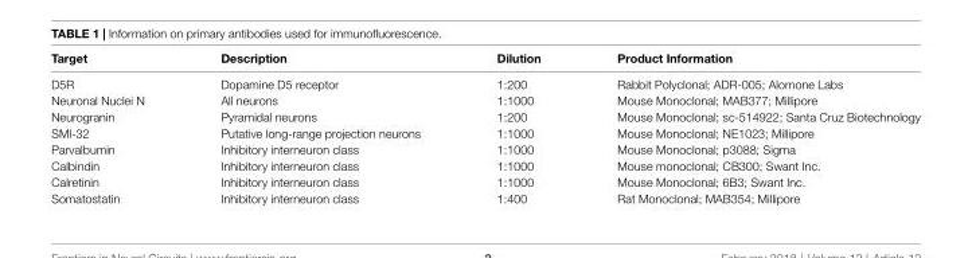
<table><thead><tr><td>Target</td><td>Description</td><td>Dilution</td><td>Product Information</td></tr></thead><tbody><tr><td>D5R</td><td>Dopamine D5 receptor</td><td>1:200</td><td>Rabbit Polyclonal; ADR-005; Alomone Labs</td></tr><tr><td>Neuronal Nuclei N</td><td>All neurons</td><td>1:1000</td><td>Mouse Monoclonal; MAB377; Millipore</td></tr><tr><td>Neurogranin</td><td>Pyramidal neurons</td><td>1:200</td><td>Mouse Monoclonal; sc-514922; Santa Cruz Biotechnology</td></tr><tr><td>SMI-32</td><td>Putative long-range projection neurons</td><td>1:1000</td><td>Mouse Monoclonal; NE1023; Millipore</td></tr><tr><td>Parvalbumin</td><td>Inhibitory interneuron class</td><td>1:1000</td><td>Mouse Monoclonal; p3088; Sigma</td></tr><tr><td>Calbindin</td><td>Inhibitory interneuron class</td><td>1:1000</td><td>Mouse monoclonal; CB300; Swant Inc.</td></tr><tr><td>Calretinin</td><td>Inhibitory interneuron class</td><td>1:1000</td><td>Mouse Monoclonal; 6B3; Swant Inc.</td></tr><tr><td>Somatostatin</td><td>Inhibitory interneuron class</td><td>1:400</td><td>Rat Monoclonal; MAB354; Millipore</td></tr></tbody></table>